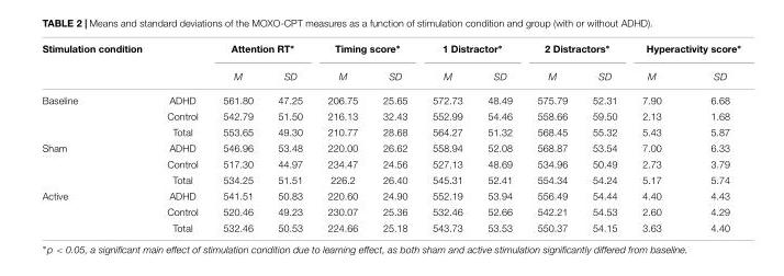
<table><thead><tr><td rowspan="2">Stimulation condition</td><td rowspan="2"></td><td colspan="2">Attention RT∗</td><td colspan="2">Timing score∗</td><td colspan="2">1 Distractor∗</td><td colspan="2">2 Distractors∗</td><td colspan="2">Hyperactivity score∗</td></tr><tr><td>M</td><td>SD</td><td>M</td><td>SD</td><td>M</td><td>SD</td><td>M</td><td>SD</td><td>M</td><td>SD</td></tr></thead><tbody><tr><td rowspan="3">Baseline</td><td>ADHD</td><td>561.80</td><td>47.25</td><td>206.75</td><td>25.65</td><td>572.73</td><td>48.49</td><td>575.79</td><td>52.31</td><td>7.90</td><td>6.68</td></tr><tr><td>Control</td><td>542.79</td><td>51.50</td><td>216.13</td><td>32.43</td><td>552.99</td><td>54.46</td><td>558.66</td><td>59.50</td><td>2.13</td><td>1.68</td></tr><tr><td>Total</td><td>553.65</td><td>49.30</td><td>210.77</td><td>28.68</td><td>564.27</td><td>51.32</td><td>568.45</td><td>55.32</td><td>5.43</td><td>5.87</td></tr><tr><td rowspan="3">Sham</td><td>ADHD</td><td>546.96</td><td>53.48</td><td>220.00</td><td>26.62</td><td>558.94</td><td>52.08</td><td>568.87</td><td>53.54</td><td>7.00</td><td>6.33</td></tr><tr><td>Control</td><td>517.30</td><td>44.97</td><td>234.47</td><td>24.56</td><td>527.13</td><td>48.69</td><td>534.96</td><td>50.49</td><td>2.73</td><td>3.79</td></tr><tr><td>Total</td><td>534.25</td><td>51.51</td><td>226.2</td><td>26.40</td><td>545.31</td><td>52.41</td><td>554.34</td><td>54.24</td><td>5.17</td><td>5.74</td></tr><tr><td rowspan="3">Active</td><td>ADHD</td><td>541.51</td><td>50.83</td><td>220.60</td><td>24.90</td><td>552.19</td><td>53.94</td><td>556.49</td><td>54.44</td><td>4.40</td><td>4.43</td></tr><tr><td>Control</td><td>520.46</td><td>49.23</td><td>230.07</td><td>25.36</td><td>532.46</td><td>52.66</td><td>542.21</td><td>54.53</td><td>2.60</td><td>4.29</td></tr><tr><td>Total</td><td>532.46</td><td>50.53</td><td>224.66</td><td>25.18</td><td>543.73</td><td>53.53</td><td>550.37</td><td>54.15</td><td>3.63</td><td>4.40</td></tr></tbody></table>